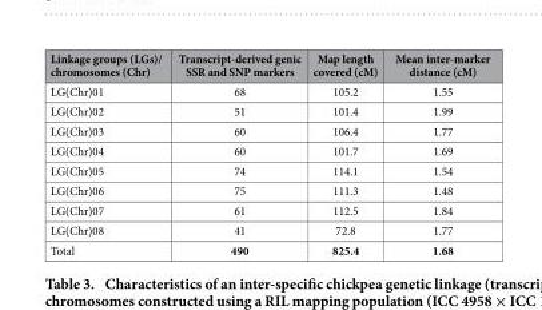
<table><thead><tr><td>Linkage groups (LGs)/ chromosomes (Chr)</td><td>Transcript-derived genic SSR and SNP markers</td><td>Map length covered (cM)</td><td>Mean inter-marker distance (cM)</td></tr></thead><tbody><tr><td>LG(Chr)01</td><td>68</td><td>105.2</td><td>1.55</td></tr><tr><td>LG(Chr)02</td><td>51</td><td>101.4</td><td>1.99</td></tr><tr><td>LG(Chr)03</td><td>60</td><td>106.4</td><td>1.77</td></tr><tr><td>LG(Chr)04</td><td>60</td><td>101.7</td><td>1.69</td></tr><tr><td>LG(Chr)05</td><td>74</td><td>114.1</td><td>1.54</td></tr><tr><td>LG(Chr)06</td><td>75</td><td>111.3</td><td>1.48</td></tr><tr><td>LG(Chr)07</td><td>61</td><td>112.5</td><td>1.84</td></tr><tr><td>LG(Chr)08</td><td>41</td><td>72.8</td><td>1.77</td></tr><tr><td>Total</td><td>490</td><td>825.4</td><td>1.68</td></tr></tbody></table>